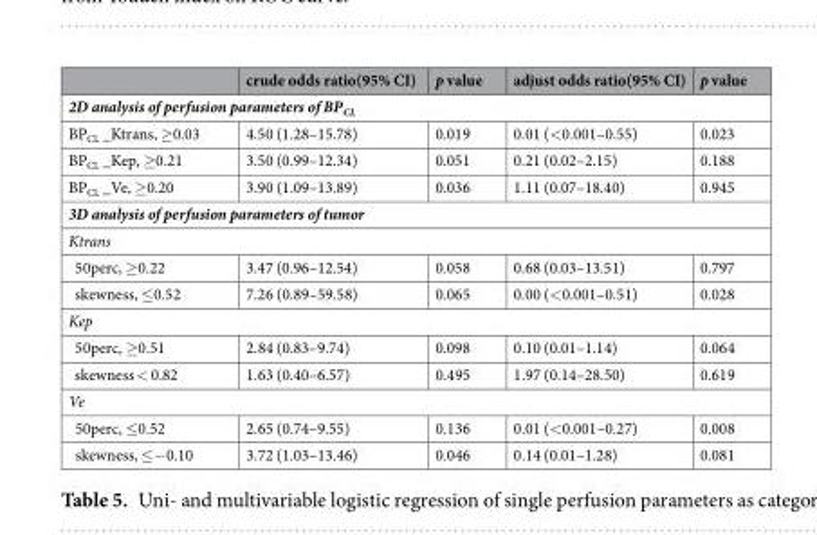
<table><thead><tr><td></td><td>crude odds ratio(95% CI)</td><td>p value</td><td>adjust odds ratio(95% CI)</td><td>p value</td></tr></thead><tbody><tr><td colspan="5">2D analysis of perfusion parameters of BP<sub>CL</sub></td></tr><tr><td>BPCL _Ktrans, ≥0.03</td><td>4.50 (1.28–15.78)</td><td>0.019</td><td>0.01 (&lt;0.001–0.55)</td><td>0.023</td></tr><tr><td>BPCL _Kep, ≥0.21</td><td>3.50 (0.99–12.34)</td><td>0.051</td><td>0.21 (0.02–2.15)</td><td>0.188</td></tr><tr><td>BPCL _Ve, ≥0.20</td><td>3.90 (1.09–13.89)</td><td>0.036</td><td>1.11 (0.07–18.40)</td><td>0.945</td></tr><tr><td colspan="5">3D analysis of perfusion parameters of tumor</td></tr><tr><td colspan="5">Ktrans</td></tr><tr><td>50perc, ≥0.22</td><td>3.47 (0.96–12.54)</td><td>0.058</td><td>0.68 (0.03–13.51)</td><td>0.797</td></tr><tr><td>skewness, ≤0.52</td><td>7.26 (0.89–59.58)</td><td>0.065</td><td>0.00 (&lt;0.001–0.51)</td><td>0.028</td></tr><tr><td colspan="5">Kep</td></tr><tr><td>50perc, ≥0.51</td><td>2.84 (0.83–9.74)</td><td>0.098</td><td>0.10 (0.01–1.14)</td><td>0.064</td></tr><tr><td>skewness &lt; 0.82</td><td>1.63 (0.40–6.57)</td><td>0.495</td><td>1.97 (0.14–28.50)</td><td>0.619</td></tr><tr><td colspan="5">Ve</td></tr><tr><td>50perc, ≤0.52</td><td>2.65 (0.74–9.55)</td><td>0.136</td><td>0.01 (&lt;0.001–0.27)</td><td>0.008</td></tr><tr><td>skewness, ≤−0.10</td><td>3.72 (1.03–13.46)</td><td>0.046</td><td>0.14 (0.01–1.28)</td><td>0.081</td></tr></tbody></table>